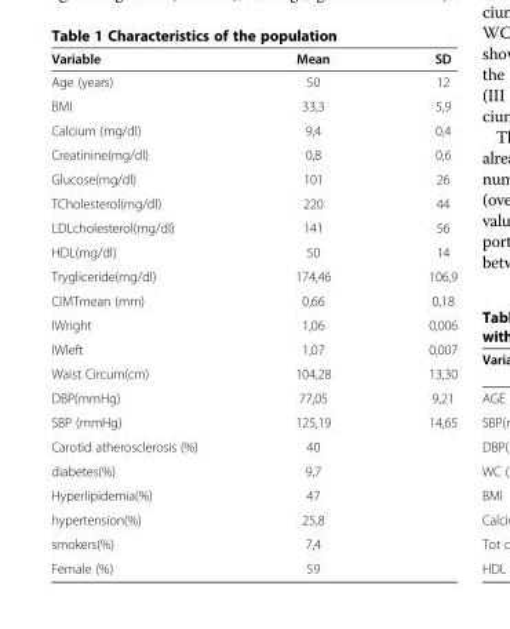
<table><thead><tr><td>Variable</td><td>Mean</td><td>SD</td></tr></thead><tbody><tr><td>Age (years)</td><td>50</td><td>12</td></tr><tr><td>BMI</td><td>33,3</td><td>5,9</td></tr><tr><td>Calcium (mg/dl)</td><td>9,4</td><td>0,4</td></tr><tr><td>Creatinine(mg/dl)</td><td>0,8</td><td>0,6</td></tr><tr><td>Glucose(mg/dl)</td><td>101</td><td>26</td></tr><tr><td>TCholesterol(mg/dl)</td><td>220</td><td>44</td></tr><tr><td>LDLcholesterol(mg/dl)</td><td>141</td><td>56</td></tr><tr><td>HDL(mg/dl)</td><td>50</td><td>14</td></tr><tr><td>Trygliceride(mg/dl)</td><td>174,46</td><td>106,9</td></tr><tr><td>CIMTmean (mm)</td><td>0,66</td><td>0,18</td></tr><tr><td>IWright</td><td>1,06</td><td>0,006</td></tr><tr><td>IWleft</td><td>1,07</td><td>0,007</td></tr><tr><td>Waist Circum(cm)</td><td>104,28</td><td>13,30</td></tr><tr><td>DBP(mmHg)</td><td>77,05</td><td>9,21</td></tr><tr><td>SBP (mmHg)</td><td>125,19</td><td>14,65</td></tr><tr><td>Carotid atherosclerosis (%)</td><td>40</td><td></td></tr><tr><td>diabetes(%)</td><td>9,7</td><td></td></tr><tr><td>Hyperlipidemia(%)</td><td>47</td><td></td></tr><tr><td>hypertension(%)</td><td>25,8</td><td></td></tr><tr><td>smokers(%)</td><td>7,4</td><td></td></tr><tr><td>Female (%)</td><td>59</td><td></td></tr></tbody></table>